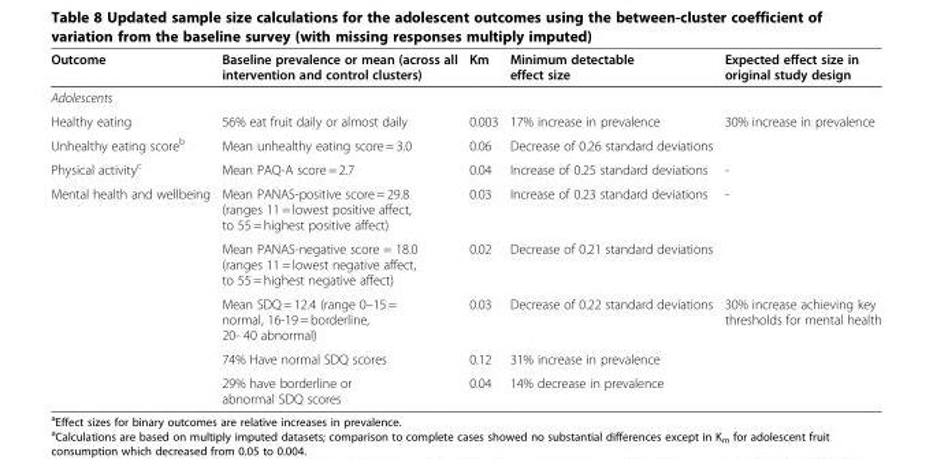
<table><thead><tr><td>Outcome</td><td>Baseline prevalence or mean (across all intervention and control clusters)</td><td>Km</td><td>Minimum detectable effect size</td><td>Expected effect size in original study design</td></tr></thead><tbody><tr><td colspan="5">Adolescents</td></tr><tr><td>Healthy eating</td><td>56% eat fruit daily or almost daily</td><td>0.003</td><td>17% increase in prevalence</td><td>30% increase in prevalence</td></tr><tr><td>Unhealthy eating score<sup>b</sup></td><td>Mean unhealthy eating score = 3.0</td><td>0.06</td><td>Decrease of 0.26 standard deviations</td><td></td></tr><tr><td>Physical activity<sup>c</sup></td><td>Mean PAQ-A score = 2.7</td><td>0.04</td><td>Increase of 0.25 standard deviations</td><td>-</td></tr><tr><td rowspan="5">Mental health and wellbeing</td><td>Mean PANAS-positive score = 29.8 (ranges 11 = lowest positive affect, to 55 = highest positive affect)</td><td>0.03</td><td>Increase of 0.23 standard deviations</td><td>-</td></tr><tr><td>Mean PANAS-negative score = 18.0 (ranges 11 = lowest negative affect, to 55 = highest negative affect)</td><td>0.02</td><td>Decrease of 0.21 standard deviations</td><td></td></tr><tr><td>Mean SDQ = 12.4 (range 0–15 = normal, 16-19 = borderline, 20- 40 abnormal)</td><td>0.03</td><td>Decrease of 0.22 standard deviations</td><td>30% increase achieving key thresholds for mental health</td></tr><tr><td>74% Have normal SDQ scores</td><td>0.12</td><td>31% increase in prevalence</td><td></td></tr><tr><td>29% have borderline or abnormal SDQ scores</td><td>0.04</td><td>14% decrease in prevalence</td><td></td></tr></tbody></table>